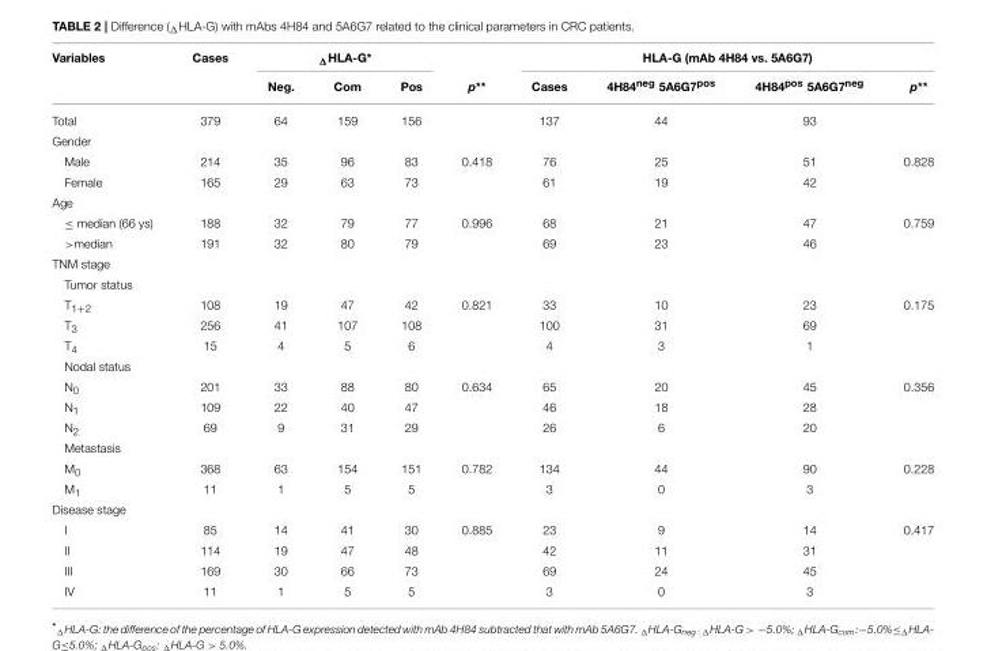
<table><thead><tr><td rowspan="2">Variables</td><td rowspan="2">Cases</td><td colspan="3"><sub>Δ</sub>HLA-G*</td><td rowspan="2">p**</td><td colspan="4">HLA-G (mAb 4H84 vs. 5A6G7)</td></tr><tr><td>Neg.</td><td>Com</td><td>Pos</td><td>Cases</td><td>4H84<sup>neg</sup> 5A6G7<sup>pos</sup></td><td>4H84<sup>pos</sup> 5A6G7<sup>neg</sup></td><td>p**</td></tr></thead><tbody><tr><td>Total</td><td>379</td><td>64</td><td>159</td><td>156</td><td></td><td>137</td><td>44</td><td>93</td><td></td></tr><tr><td colspan="10">Gender</td></tr><tr><td>Male</td><td>214</td><td>35</td><td>96</td><td>83</td><td>0.418</td><td>76</td><td>25</td><td>51</td><td>0.828</td></tr><tr><td>Female</td><td>165</td><td>29</td><td>63</td><td>73</td><td></td><td>61</td><td>19</td><td>42</td><td></td></tr><tr><td colspan="10">Age</td></tr><tr><td>≤ median (66 ys)</td><td>188</td><td>32</td><td>79</td><td>77</td><td>0.996</td><td>68</td><td>21</td><td>47</td><td>0.759</td></tr><tr><td>&gt;median</td><td>191</td><td>32</td><td>80</td><td>79</td><td></td><td>69</td><td>23</td><td>46</td><td></td></tr><tr><td colspan="10">TNM stage</td></tr><tr><td colspan="10">Tumor status</td></tr><tr><td>T<sub>1+2</sub></td><td>108</td><td>19</td><td>47</td><td>42</td><td>0.821</td><td>33</td><td>10</td><td>23</td><td>0.175</td></tr><tr><td>T<sub>3</sub></td><td>256</td><td>41</td><td>107</td><td>108</td><td></td><td>100</td><td>31</td><td>69</td><td></td></tr><tr><td>T<sub>4</sub></td><td>15</td><td>4</td><td>5</td><td>6</td><td></td><td>4</td><td>3</td><td>1</td><td></td></tr><tr><td colspan="10">Nodal status</td></tr><tr><td>N<sub>0</sub></td><td>201</td><td>33</td><td>88</td><td>80</td><td>0.634</td><td>65</td><td>20</td><td>45</td><td>0.356</td></tr><tr><td>N<sub>1</sub></td><td>109</td><td>22</td><td>40</td><td>47</td><td></td><td>46</td><td>18</td><td>28</td><td></td></tr><tr><td>N<sub>2</sub></td><td>69</td><td>9</td><td>31</td><td>29</td><td></td><td>26</td><td>6</td><td>20</td><td></td></tr><tr><td colspan="10">Metastasis</td></tr><tr><td>M<sub>0</sub></td><td>368</td><td>63</td><td>154</td><td>151</td><td>0.782</td><td>134</td><td>44</td><td>90</td><td>0.228</td></tr><tr><td>M<sub>1</sub></td><td>11</td><td>1</td><td>5</td><td>5</td><td></td><td>3</td><td>0</td><td>3</td><td></td></tr><tr><td colspan="10">Disease stage</td></tr><tr><td>I</td><td>85</td><td>14</td><td>41</td><td>30</td><td>0.885</td><td>23</td><td>9</td><td>14</td><td>0.417</td></tr><tr><td>II</td><td>114</td><td>19</td><td>47</td><td>48</td><td></td><td>42</td><td>11</td><td>31</td><td></td></tr><tr><td>III</td><td>169</td><td>30</td><td>66</td><td>73</td><td></td><td>69</td><td>24</td><td>45</td><td></td></tr><tr><td>IV</td><td>11</td><td>1</td><td>5</td><td>5</td><td></td><td>3</td><td>0</td><td>3</td><td></td></tr></tbody></table>